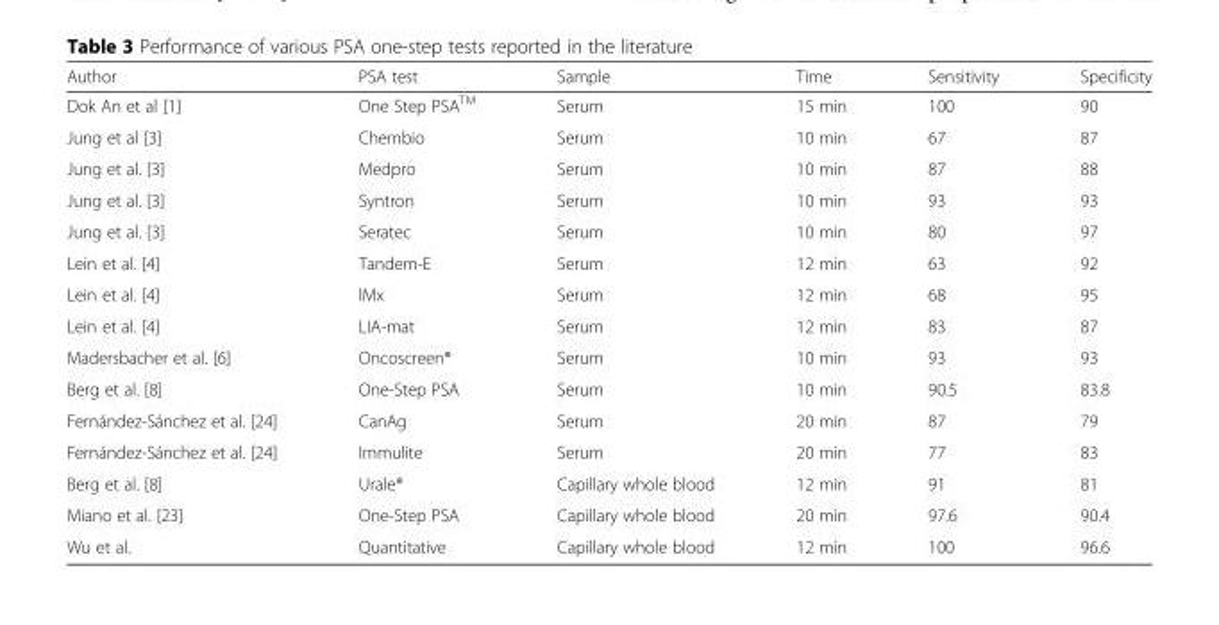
<table><thead><tr><td>Author</td><td>PSA test</td><td>Sample</td><td>Time</td><td>Sensitivity</td><td>Specificity</td></tr></thead><tbody><tr><td>Dok An et al [1]</td><td>One Step PSA<sup>TM</sup></td><td>Serum</td><td>15 min</td><td>100</td><td>90</td></tr><tr><td>Jung et al [3]</td><td>Chembio</td><td>Serum</td><td>10 min</td><td>67</td><td>87</td></tr><tr><td>Jung et al. [3]</td><td>Medpro</td><td>Serum</td><td>10 min</td><td>87</td><td>88</td></tr><tr><td>Jung et al. [3]</td><td>Syntron</td><td>Serum</td><td>10 min</td><td>93</td><td>93</td></tr><tr><td>Jung et al. [3]</td><td>Seratec</td><td>Serum</td><td>10 min</td><td>80</td><td>97</td></tr><tr><td>Lein et al. [4]</td><td>Tandem-E</td><td>Serum</td><td>12 min</td><td>63</td><td>92</td></tr><tr><td>Lein et al. [4]</td><td>lMx</td><td>Serum</td><td>12 min</td><td>68</td><td>95</td></tr><tr><td>Lein et al. [4]</td><td>LIA-mat</td><td>Serum</td><td>12 min</td><td>83</td><td>87</td></tr><tr><td>Madersbacher et al. [6]</td><td>Oncoscreen®</td><td>Serum</td><td>10 min</td><td>93</td><td>93</td></tr><tr><td>Berg et al. [8]</td><td>One-Step PSA</td><td>Serum</td><td>10 min</td><td>90.5</td><td>83.8</td></tr><tr><td>Fernández-Sánchez et al. [24]</td><td>CanAg</td><td>Serum</td><td>20 min</td><td>87</td><td>79</td></tr><tr><td>Fernández-Sánchez et al. [24]</td><td>Immulite</td><td>Serum</td><td>20 min</td><td>77</td><td>83</td></tr><tr><td>Berg et al. [8]</td><td>Urale®</td><td>Capillary whole blood</td><td>12 min</td><td>91</td><td>81</td></tr><tr><td>Miano et al. [23]</td><td>One-Step PSA</td><td>Capillary whole blood</td><td>20 min</td><td>97.6</td><td>90.4</td></tr><tr><td>Wu et al.</td><td>Quantitative</td><td>Capillary whole blood</td><td>12 min</td><td>100</td><td>96.6</td></tr></tbody></table>